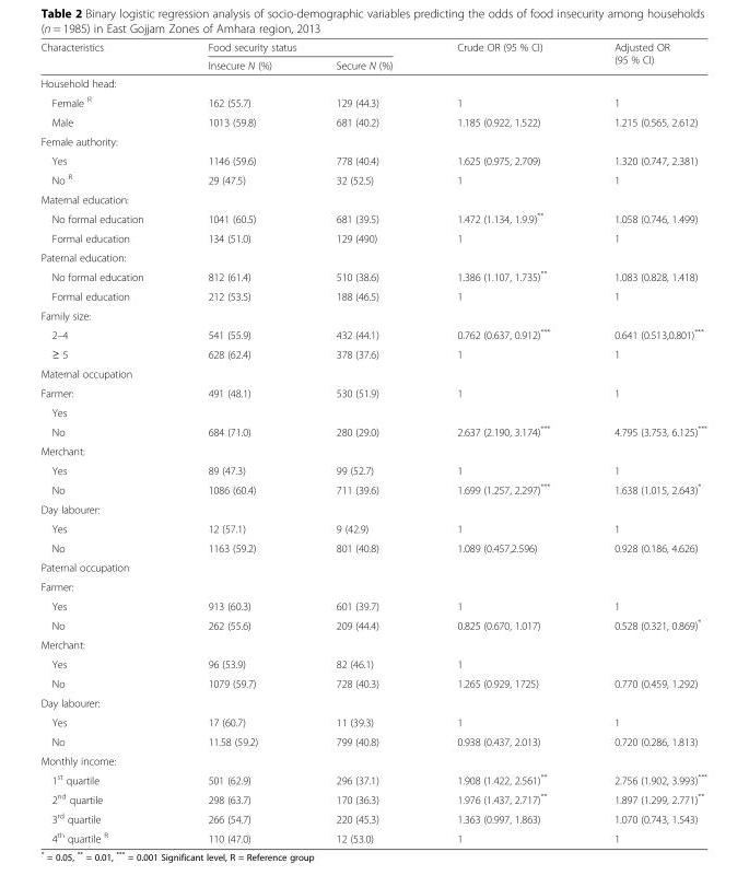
<table><thead><tr><td rowspan="2">Characteristics</td><td colspan="2">Food security status</td><td rowspan="2">Crude OR (95 % CI)</td><td rowspan="2">Adjusted OR (95 % CI)</td></tr><tr><td>Insecure N (%)</td><td>Secure N (%)</td></tr></thead><tbody><tr><td colspan="5">Household head:</td></tr><tr><td>Female <sup>R</sup></td><td>162 (55.7)</td><td>129 (44.3)</td><td>1</td><td>1</td></tr><tr><td>Male</td><td>1013 (59.8)</td><td>681 (40.2)</td><td>1.185 (0.922, 1.522)</td><td>1.215 (0.565, 2.612)</td></tr><tr><td colspan="5">Female authority:</td></tr><tr><td>Yes</td><td>1146 (59.6)</td><td>778 (40.4)</td><td>1.625 (0.975, 2.709)</td><td>1.320 (0.747, 2.381)</td></tr><tr><td>No <sup>R</sup></td><td>29 (47.5)</td><td>32 (52.5)</td><td>1</td><td>1</td></tr><tr><td colspan="5">Maternal education:</td></tr><tr><td>No formal education</td><td>1041 (60.5)</td><td>681 (39.5)</td><td>1.472 (1.134, 1.9.9)**</td><td>1.058 (0.746, 1.499)</td></tr><tr><td>Formal education</td><td>134 (51.0)</td><td>129 (490)</td><td>1</td><td>1</td></tr><tr><td colspan="5">Paternal education:</td></tr><tr><td>No formal education</td><td>812 (61.4)</td><td>510 (38.6)</td><td>1.386 (1.107, 1.735)**</td><td>1.083 (0.828, 1.418)</td></tr><tr><td>Formal education</td><td>212 (53.5)</td><td>188 (46.5)</td><td>1</td><td>1</td></tr><tr><td colspan="5">Family size:</td></tr><tr><td>2–4</td><td>541 (55.9)</td><td>432 (44.1)</td><td>0.762 (0.637, 0.912)***</td><td>0.641 (0.513,0.801)***</td></tr><tr><td>≥ 5</td><td>628 (62.4)</td><td>378 (37.6)</td><td>1</td><td>1</td></tr><tr><td colspan="5">Maternal occupation</td></tr><tr><td>Farmer:</td><td>491 (48.1)</td><td>530 (51.9)</td><td>1</td><td>1</td></tr><tr><td colspan="5">Yes</td></tr><tr><td>No</td><td>684 (71.0)</td><td>280 (29.0)</td><td>2.637 (2.190, 3.174)***</td><td>4.795 (3.753, 6.125)***</td></tr><tr><td colspan="5">Merchant:</td></tr><tr><td>Yes</td><td>89 (47.3)</td><td>99 (52.7)</td><td>1</td><td>1</td></tr><tr><td>No</td><td>1086 (60.4)</td><td>711 (39.6)</td><td>1.699 (1.257, 2.297)***</td><td>1.638 (1.015, 2.643)*</td></tr><tr><td colspan="5">Day labourer:</td></tr><tr><td>Yes</td><td>12 (57.1)</td><td>9 (42.9)</td><td>1</td><td>1</td></tr><tr><td>No</td><td>1163 (59.2)</td><td>801 (40.8)</td><td>1.089 (0.457,2.596)</td><td>0.928 (0.186, 4.626)</td></tr><tr><td colspan="5">Paternal occupation</td></tr><tr><td colspan="5">Farmer:</td></tr><tr><td>Yes</td><td>913 (60.3)</td><td>601 (39.7)</td><td>1</td><td>1</td></tr><tr><td>No</td><td>262 (55.6)</td><td>209 (44.4)</td><td>0.825 (0.670, 1.017)</td><td>0.528 (0.321, 0.869)*</td></tr><tr><td colspan="5">Merchant:</td></tr><tr><td>Yes</td><td>96 (53.9)</td><td>82 (46.1)</td><td>1</td><td></td></tr><tr><td>No</td><td>1079 (59.7)</td><td>728 (40.3)</td><td>1.265 (0.929, 1725)</td><td>0.770 (0.459, 1.292)</td></tr><tr><td colspan="5">Day labourer:</td></tr><tr><td>Yes</td><td>17 (60.7)</td><td>11 (39.3)</td><td>1</td><td>1</td></tr><tr><td>No</td><td>11.58 (59.2)</td><td>799 (40.8)</td><td>0.938 (0.437, 2.013)</td><td>0.720 (0.286, 1.813)</td></tr><tr><td colspan="5">Monthly income:</td></tr><tr><td>1<sup>st</sup> quartile</td><td>501 (62.9)</td><td>296 (37.1)</td><td>1.908 (1.422, 2.561)**</td><td>2.756 (1.902, 3.993)***</td></tr><tr><td>2<sup>nd</sup> quartile</td><td>298 (63.7)</td><td>170 (36.3)</td><td>1.976 (1.437, 2.717)**</td><td>1.897 (1.299, 2.771)**</td></tr><tr><td>3<sup>rd</sup> quartile</td><td>266 (54.7)</td><td>220 (45.3)</td><td>1.363 (0.997, 1.863)</td><td>1.070 (0.743, 1.543)</td></tr><tr><td>4<sup>th</sup> quartile <sup>R</sup></td><td>110 (47.0)</td><td>12 (53.0)</td><td>1</td><td>1</td></tr></tbody></table>